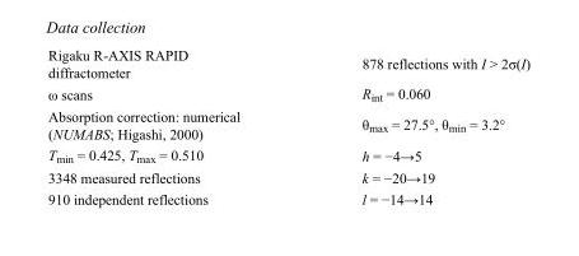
<table><tbody><tr><td>Rigaku R-AXIS RAPID diffractometer</td><td>878 reflections with I &gt; 2σ(I)</td></tr><tr><td>ω scans</td><td>R<sub>int</sub> = 0.060</td></tr><tr><td>Absorption correction: numerical (NUMABS; Higashi, 2000)</td><td>θ<sub>max</sub> = 27.5°, θ<sub>min</sub> = 3.2°</td></tr><tr><td>T<sub>min</sub> = 0.425, T<sub>max</sub> = 0.510</td><td>h = −4→5</td></tr><tr><td>3348 measured reflections</td><td>k = −20→19</td></tr><tr><td>910 independent reflections</td><td>l = −14→14</td></tr></tbody></table>